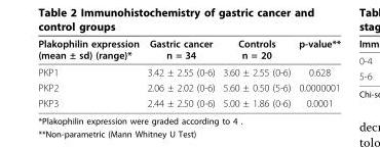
<table><thead><tr><td>Plakophilin expression (mean ± sd) (range)*</td><td>Gastric cancer n = 34</td><td>Controls n = 20</td><td>p-value**</td></tr></thead><tbody><tr><td>PKP1</td><td>3.42 ± 2.55 (0-6)</td><td>3.60 ± 2.55 (0-6)</td><td>0.628</td></tr><tr><td>PKP2</td><td>2.06 ± 2.02 (0-6)</td><td>5.60 ± 0.50 (5-6)</td><td>0.0000001</td></tr><tr><td>PKP3</td><td>2.44 ± 2.50 (0-6)</td><td>5.00 ± 1.86 (0-6)</td><td>0.0001</td></tr></tbody></table>